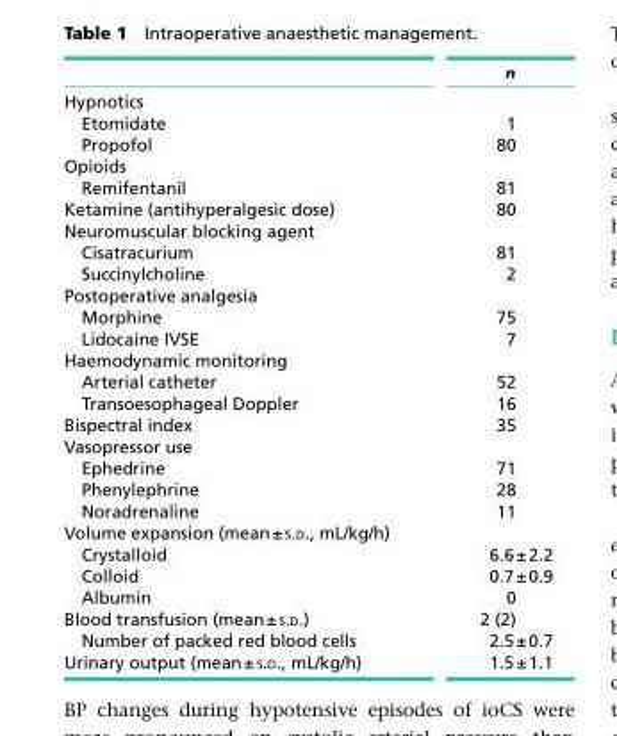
<table><thead><tr><td></td><td>n</td></tr></thead><tbody><tr><td colspan="2">Hypnotics</td></tr><tr><td>Etomidate</td><td>1</td></tr><tr><td>Propofol</td><td>80</td></tr><tr><td colspan="2">Opioids</td></tr><tr><td>Remifentanil</td><td>81</td></tr><tr><td>Ketamine (antihyperalgesic dose)</td><td>80</td></tr><tr><td colspan="2">Neuromuscular blocking agent</td></tr><tr><td>Cisatracurium</td><td>81</td></tr><tr><td>Succinylcholine</td><td>2</td></tr><tr><td colspan="2">Postoperative analgesia</td></tr><tr><td>Morphine</td><td>75</td></tr><tr><td>Lidocaine IVSE</td><td>7</td></tr><tr><td colspan="2">Haemodynamic monitoring</td></tr><tr><td>Arterial catheter</td><td>52</td></tr><tr><td>Transoesophageal Doppler</td><td>16</td></tr><tr><td>Bispectral index</td><td>35</td></tr><tr><td colspan="2">Vasopressor use</td></tr><tr><td>Ephedrine</td><td>71</td></tr><tr><td>Phenylephrine</td><td>28</td></tr><tr><td>Noradrenaline</td><td>11</td></tr><tr><td colspan="2">Volume expansion (mean ± s.d., mL/kg/h)</td></tr><tr><td>Crystalloid</td><td>6.6 ± 2.2</td></tr><tr><td>Colloid</td><td>0.7 ± 0.9</td></tr><tr><td>Albumin</td><td>0</td></tr><tr><td>Blood transfusion (mean ± s.d.)</td><td>2 (2)</td></tr><tr><td>Number of packed red blood cells</td><td>2.5 ± 0.7</td></tr><tr><td>Urinary output (mean ± s.d., mL/kg/h)</td><td>1.5 ± 1.1</td></tr></tbody></table>